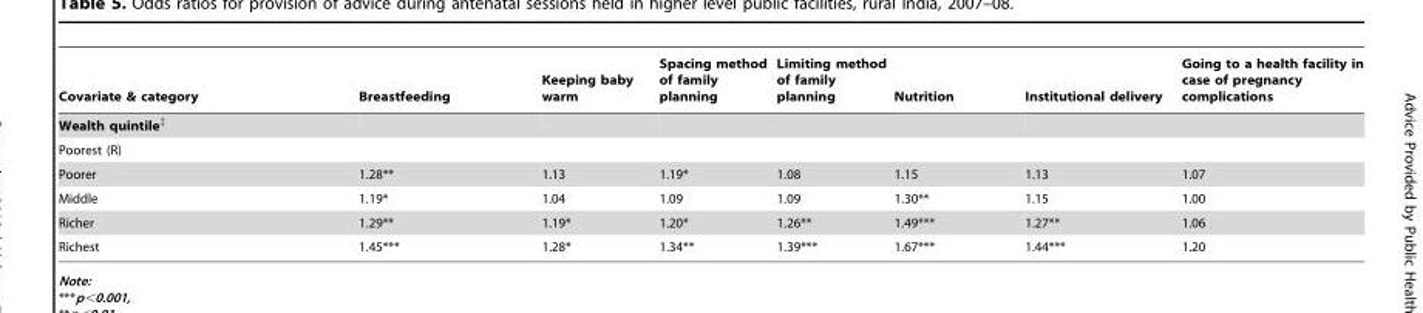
<table><thead><tr><td>Covariate &amp; category</td><td>Breastfeeding</td><td>Keeping baby warm</td><td>Spacing method of family planning</td><td>Limiting method of family planning</td><td>Nutrition</td><td>Institutional delivery</td><td>Going to a health facility in case of pregnancy complications</td></tr></thead><tbody><tr><td colspan="8">Wealth quintile‡</td></tr><tr><td colspan="8">Poorest (R)</td></tr><tr><td>Poorer</td><td>1.28**</td><td>1.13</td><td>1.19*</td><td>1.08</td><td>1.15</td><td>1.13</td><td>1.07</td></tr><tr><td>Middle</td><td>1.19*</td><td>1.04</td><td>1.09</td><td>1.09</td><td>1.30**</td><td>1.15</td><td>1.00</td></tr><tr><td>Richer</td><td>1.29**</td><td>1.19*</td><td>1.20*</td><td>1.26**</td><td>1.49***</td><td>1.27**</td><td>1.06</td></tr><tr><td>Richest</td><td>1.45***</td><td>1.28*</td><td>1.34**</td><td>1.39***</td><td>1.67***</td><td>1.44***</td><td>1.20</td></tr></tbody></table>